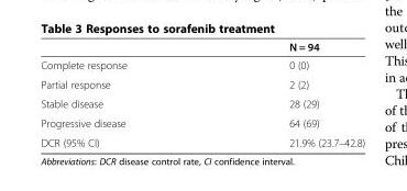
<table><thead><tr><td></td><td>N = 94</td></tr></thead><tbody><tr><td>Complete response</td><td>0 (0)</td></tr><tr><td>Partial response</td><td>2 (2)</td></tr><tr><td>Stable disease</td><td>28 (29)</td></tr><tr><td>Progressive disease</td><td>64 (69)</td></tr><tr><td>DCR (95% CI)</td><td>21.9% (23.7–42.8)</td></tr></tbody></table>